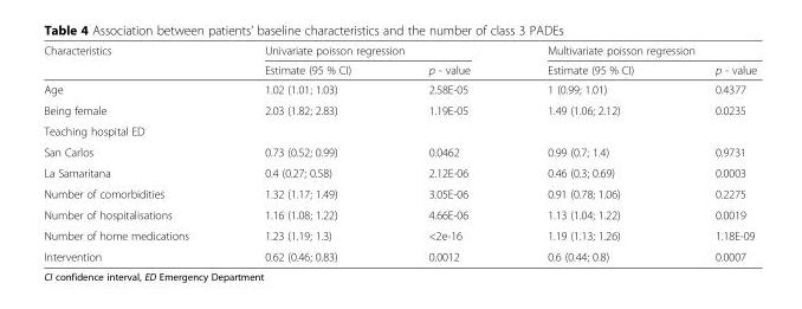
<table><thead><tr><td rowspan="2">Characteristics</td><td colspan="2">Univariate poisson regression</td><td colspan="2">Multivariate poisson regression</td></tr><tr><td>Estimate (95 % CI)</td><td>p - value</td><td>Estimate (95 % CI)</td><td>p - value</td></tr></thead><tbody><tr><td>Age</td><td>1.02 (1.01; 1.03)</td><td>2.58E-05</td><td>1 (0.99; 1.01)</td><td>0.4377</td></tr><tr><td>Being female</td><td>2.03 (1.82; 2.83)</td><td>1.19E-05</td><td>1.49 (1.06; 2.12)</td><td>0.0235</td></tr><tr><td colspan="5">Teaching hospital ED</td></tr><tr><td>San Carlos</td><td>0.73 (0.52; 0.99)</td><td>0.0462</td><td>0.99 (0.7; 1.4)</td><td>0.9731</td></tr><tr><td>La Samaritana</td><td>0.4 (0.27; 0.58)</td><td>2.12E-06</td><td>0.46 (0.3; 0.69)</td><td>0.0003</td></tr><tr><td>Number of comorbidities</td><td>1.32 (1.17; 1.49)</td><td>3.05E-06</td><td>0.91 (0.78; 1.06)</td><td>0.2275</td></tr><tr><td>Number of hospitalisations</td><td>1.16 (1.08; 1.22)</td><td>4.66E-06</td><td>1.13 (1.04; 1.22)</td><td>0.0019</td></tr><tr><td>Number of home medications</td><td>1.23 (1.19; 1.3)</td><td>&lt;2e-16</td><td>1.19 (1.13; 1.26)</td><td>1.18E-09</td></tr><tr><td>Intervention</td><td>0.62 (0.46; 0.83)</td><td>0.0012</td><td>0.6 (0.44; 0.8)</td><td>0.0007</td></tr></tbody></table>